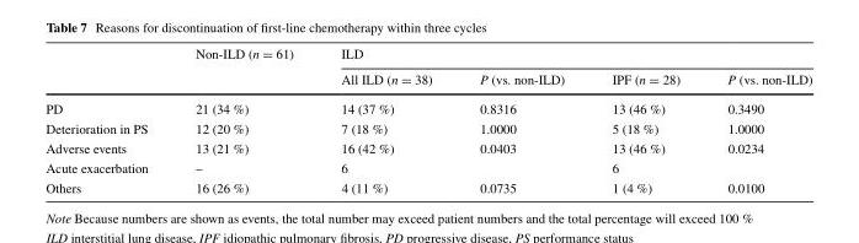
<table><thead><tr><td rowspan="2"></td><td rowspan="2">Non-ILD (n = 61)</td><td colspan="4">ILD</td></tr><tr><td>All ILD (n = 38)</td><td>P (vs. non-ILD)</td><td>IPF (n = 28)</td><td>P (vs. non-ILD)</td></tr></thead><tbody><tr><td>PD</td><td>21 (34 %)</td><td>14 (37 %)</td><td>0.8316</td><td>13 (46 %)</td><td>0.3490</td></tr><tr><td>Deterioration in PS</td><td>12 (20 %)</td><td>7 (18 %)</td><td>1.0000</td><td>5 (18 %)</td><td>1.0000</td></tr><tr><td>Adverse events</td><td>13 (21 %)</td><td>16 (42 %)</td><td>0.0403</td><td>13 (46 %)</td><td>0.0234</td></tr><tr><td>Acute exacerbation</td><td>–</td><td>6</td><td></td><td>6</td><td></td></tr><tr><td>Others</td><td>16 (26 %)</td><td>4 (11 %)</td><td>0.0735</td><td>1 (4 %)</td><td>0.0100</td></tr></tbody></table>